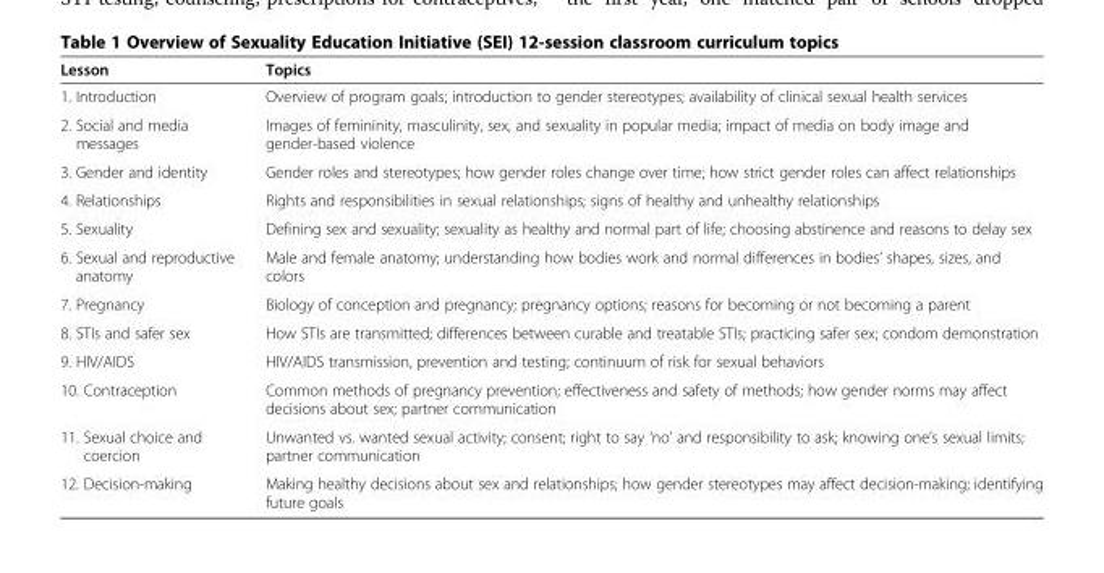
<table><thead><tr><td>Lesson</td><td>Topics</td></tr></thead><tbody><tr><td>1. Introduction</td><td>Overview of program goals; introduction to gender stereotypes; availability of clinical sexual health services</td></tr><tr><td>2. Social and media messages</td><td>Images of femininity, masculinity, sex, and sexuality in popular media; impact of media on body image and gender-based violence</td></tr><tr><td>3. Gender and identity</td><td>Gender roles and stereotypes; how gender roles change over time; how strict gender roles can affect relationships</td></tr><tr><td>4. Relationships</td><td>Rights and responsibilities in sexual relationships; signs of healthy and unhealthy relationships</td></tr><tr><td>5. Sexuality</td><td>Defining sex and sexuality; sexuality as healthy and normal part of life; choosing abstinence and reasons to delay sex</td></tr><tr><td>6. Sexual and reproductive anatomy</td><td>Male and female anatomy; understanding how bodies work and normal differences in bodies’ shapes, sizes, and colors</td></tr><tr><td>7. Pregnancy</td><td>Biology of conception and pregnancy; pregnancy options; reasons for becoming or not becoming a parent</td></tr><tr><td>8. STIs and safer sex</td><td>How STIs are transmitted; differences between curable and treatable STIs; practicing safer sex; condom demonstration</td></tr><tr><td>9. HIV/AIDS</td><td>HIV/AIDS transmission, prevention and testing; continuum of risk for sexual behaviors</td></tr><tr><td>10. Contraception</td><td>Common methods of pregnancy prevention; effectiveness and safety of methods; how gender norms may affect decisions about sex; partner communication</td></tr><tr><td>11. Sexual choice and coercion</td><td>Unwanted vs. wanted sexual activity; consent; right to say ‘no’ and responsibility to ask; knowing one’s sexual limits; partner communication</td></tr><tr><td>12. Decision-making</td><td>Making healthy decisions about sex and relationships; how gender stereotypes may affect decision-making; identifying future goals</td></tr></tbody></table>